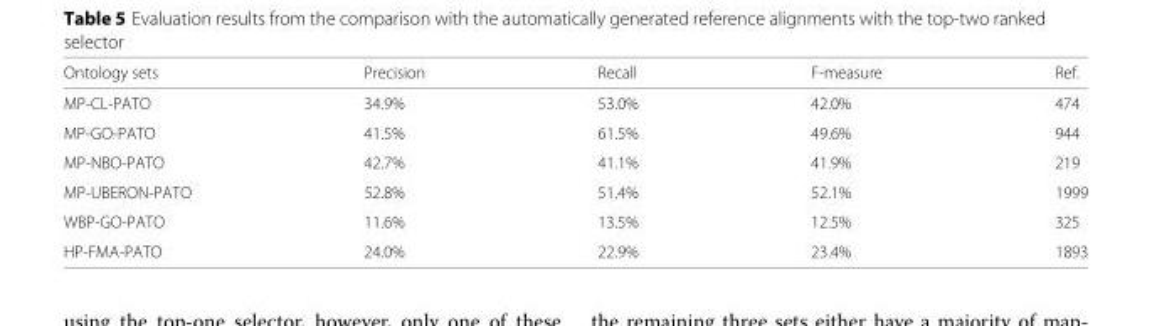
<table><thead><tr><td>Ontology sets</td><td>Precision</td><td>Recall</td><td>F-measure</td><td>Ref.</td></tr></thead><tbody><tr><td>MP-CL-PATO</td><td>34.9%</td><td>53.0%</td><td>42.0%</td><td>474</td></tr><tr><td>MP-GO-PATO</td><td>41.5%</td><td>61.5%</td><td>49.6%</td><td>944</td></tr><tr><td>MP-NBO-PATO</td><td>42.7%</td><td>41.1%</td><td>41.9%</td><td>219</td></tr><tr><td>MP-UBERON-PATO</td><td>52.8%</td><td>51.4%</td><td>52.1%</td><td>1999</td></tr><tr><td>WBP-GO-PATO</td><td>11.6%</td><td>13.5%</td><td>12.5%</td><td>325</td></tr><tr><td>HP-FMA-PATO</td><td>24.0%</td><td>22.9%</td><td>23.4%</td><td>1893</td></tr></tbody></table>